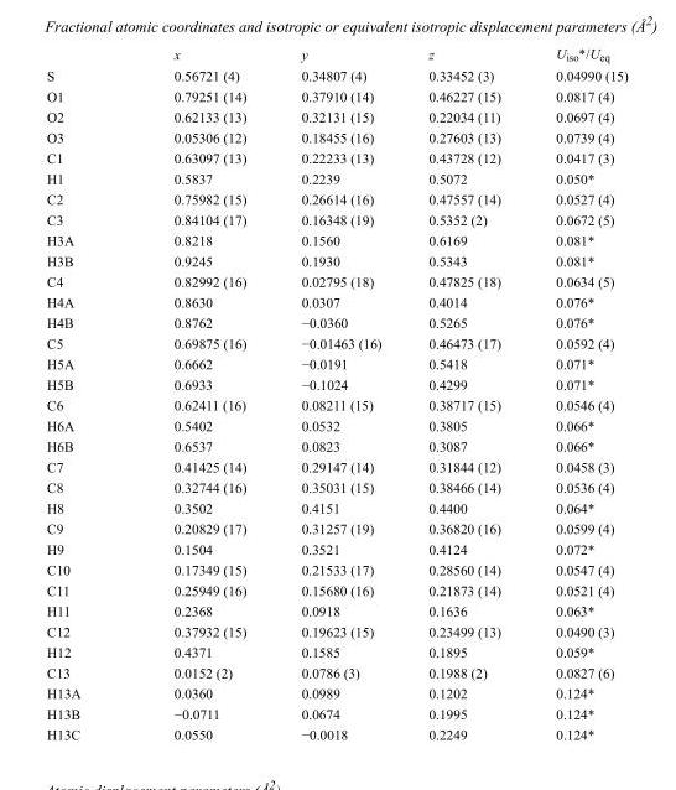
<table><thead><tr><td></td><td>x</td><td>y</td><td>z</td><td>U<sub>iso</sub>*/U<sub>eq</sub></td></tr></thead><tbody><tr><td>S</td><td>0.56721 (4)</td><td>0.34807 (4)</td><td>0.33452 (3)</td><td>0.04990 (15)</td></tr><tr><td>O1</td><td>0.79251 (14)</td><td>0.37910 (14)</td><td>0.46227 (15)</td><td>0.0817 (4)</td></tr><tr><td>O2</td><td>0.62133 (13)</td><td>0.32131 (15)</td><td>0.22034 (11)</td><td>0.0697 (4)</td></tr><tr><td>O3</td><td>0.05306 (12)</td><td>0.18455 (16)</td><td>0.27603 (13)</td><td>0.0739 (4)</td></tr><tr><td>C1</td><td>0.63097 (13)</td><td>0.22233 (13)</td><td>0.43728 (12)</td><td>0.0417 (3)</td></tr><tr><td>H1</td><td>0.5837</td><td>0.2239</td><td>0.5072</td><td>0.050*</td></tr><tr><td>C2</td><td>0.75982 (15)</td><td>0.26614 (16)</td><td>0.47557 (14)</td><td>0.0527 (4)</td></tr><tr><td>C3</td><td>0.84104 (17)</td><td>0.16348 (19)</td><td>0.5352 (2)</td><td>0.0672 (5)</td></tr><tr><td>H3A</td><td>0.8218</td><td>0.1560</td><td>0.6169</td><td>0.081*</td></tr><tr><td>H3B</td><td>0.9245</td><td>0.1930</td><td>0.5343</td><td>0.081*</td></tr><tr><td>C4</td><td>0.82992 (16)</td><td>0.02795 (18)</td><td>0.47825 (18)</td><td>0.0634 (5)</td></tr><tr><td>H4A</td><td>0.8630</td><td>0.0307</td><td>0.4014</td><td>0.076*</td></tr><tr><td>H4B</td><td>0.8762</td><td>−0.0360</td><td>0.5265</td><td>0.076*</td></tr><tr><td>C5</td><td>0.69875 (16)</td><td>−0.01463 (16)</td><td>0.46473 (17)</td><td>0.0592 (4)</td></tr><tr><td>H5A</td><td>0.6662</td><td>−0.0191</td><td>0.5418</td><td>0.071*</td></tr><tr><td>H5B</td><td>0.6933</td><td>−0.1024</td><td>0.4299</td><td>0.071*</td></tr><tr><td>C6</td><td>0.62411 (16)</td><td>0.08211 (15)</td><td>0.38717 (15)</td><td>0.0546 (4)</td></tr><tr><td>H6A</td><td>0.5402</td><td>0.0532</td><td>0.3805</td><td>0.066*</td></tr><tr><td>H6B</td><td>0.6537</td><td>0.0823</td><td>0.3087</td><td>0.066*</td></tr><tr><td>C7</td><td>0.41425 (14)</td><td>0.29147 (14)</td><td>0.31844 (12)</td><td>0.0458 (3)</td></tr><tr><td>C8</td><td>0.32744 (16)</td><td>0.35031 (15)</td><td>0.38466 (14)</td><td>0.0536 (4)</td></tr><tr><td>H8</td><td>0.3502</td><td>0.4151</td><td>0.4400</td><td>0.064*</td></tr><tr><td>C9</td><td>0.20829 (17)</td><td>0.31257 (19)</td><td>0.36820 (16)</td><td>0.0599 (4)</td></tr><tr><td>H9</td><td>0.1504</td><td>0.3521</td><td>0.4124</td><td>0.072*</td></tr><tr><td>C10</td><td>0.17349 (15)</td><td>0.21533 (17)</td><td>0.28560 (14)</td><td>0.0547 (4)</td></tr><tr><td>C11</td><td>0.25949 (16)</td><td>0.15680 (16)</td><td>0.21873 (14)</td><td>0.0521 (4)</td></tr><tr><td>H11</td><td>0.2368</td><td>0.0918</td><td>0.1636</td><td>0.063*</td></tr><tr><td>C12</td><td>0.37932 (15)</td><td>0.19623 (15)</td><td>0.23499 (13)</td><td>0.0490 (3)</td></tr><tr><td>H12</td><td>0.4371</td><td>0.1585</td><td>0.1895</td><td>0.059*</td></tr><tr><td>C13</td><td>0.0152 (2)</td><td>0.0786 (3)</td><td>0.1988 (2)</td><td>0.0827 (6)</td></tr><tr><td>H13A</td><td>0.0360</td><td>0.0989</td><td>0.1202</td><td>0.124*</td></tr><tr><td>H13B</td><td>−0.0711</td><td>0.0674</td><td>0.1995</td><td>0.124*</td></tr><tr><td>H13C</td><td>0.0550</td><td>−0.0018</td><td>0.2249</td><td>0.124*</td></tr></tbody></table>